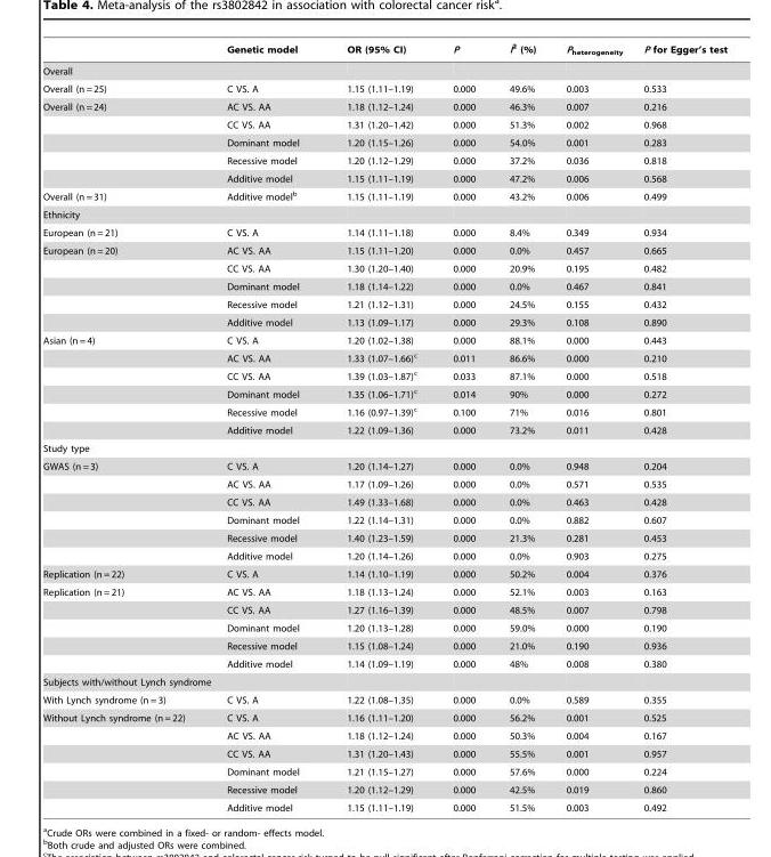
<table><thead><tr><td></td><td>Genetic model</td><td>OR (95% CI)</td><td>P</td><td>I<sup>2</sup> (%)</td><td>P<sub>heterogeneity</sub></td><td>P for Egger’s test</td></tr></thead><tbody><tr><td colspan="7">Overall</td></tr><tr><td>Overall (n = 25)</td><td>C VS. A</td><td>1.15 (1.11–1.19)</td><td>0.000</td><td>49.6%</td><td>0.003</td><td>0.533</td></tr><tr><td rowspan="5">Overall (n = 24)</td><td>AC VS. AA</td><td>1.18 (1.12–1.24)</td><td>0.000</td><td>46.3%</td><td>0.007</td><td>0.216</td></tr><tr><td>CC VS. AA</td><td>1.31 (1.20–1.42)</td><td>0.000</td><td>51.3%</td><td>0.002</td><td>0.968</td></tr><tr><td>Dominant model</td><td>1.20 (1.15–1.26)</td><td>0.000</td><td>54.0%</td><td>0.001</td><td>0.283</td></tr><tr><td>Recessive model</td><td>1.20 (1.12–1.29)</td><td>0.000</td><td>37.2%</td><td>0.036</td><td>0.818</td></tr><tr><td>Additive model</td><td>1.15 (1.11–1.19)</td><td>0.000</td><td>47.2%</td><td>0.006</td><td>0.568</td></tr><tr><td>Overall (n = 31)</td><td>Additive model<sup>b</sup></td><td>1.15 (1.11–1.19)</td><td>0.000</td><td>43.2%</td><td>0.006</td><td>0.499</td></tr><tr><td colspan="7">Ethnicity</td></tr><tr><td>European (n = 21)</td><td>C VS. A</td><td>1.14 (1.11–1.18)</td><td>0.000</td><td>8.4%</td><td>0.349</td><td>0.934</td></tr><tr><td rowspan="5">European (n = 20)</td><td>AC VS. AA</td><td>1.15 (1.11–1.20)</td><td>0.000</td><td>0.0%</td><td>0.457</td><td>0.665</td></tr><tr><td>CC VS. AA</td><td>1.30 (1.20–1.40)</td><td>0.000</td><td>20.9%</td><td>0.195</td><td>0.482</td></tr><tr><td>Dominant model</td><td>1.18 (1.14–1.22)</td><td>0.000</td><td>0.0%</td><td>0.467</td><td>0.841</td></tr><tr><td>Recessive model</td><td>1.21 (1.12–1.31)</td><td>0.000</td><td>24.5%</td><td>0.155</td><td>0.432</td></tr><tr><td>Additive model</td><td>1.13 (1.09–1.17)</td><td>0.000</td><td>29.3%</td><td>0.108</td><td>0.890</td></tr><tr><td rowspan="6">Asian (n = 4)</td><td>C VS. A</td><td>1.20 (1.02–1.38)</td><td>0.000</td><td>88.1%</td><td>0.000</td><td>0.443</td></tr><tr><td>AC VS. AA</td><td>1.33 (1.07–1.66)<sup>c</sup></td><td>0.011</td><td>86.6%</td><td>0.000</td><td>0.210</td></tr><tr><td>CC VS. AA</td><td>1.39 (1.03–1.87)<sup>c</sup></td><td>0.033</td><td>87.1%</td><td>0.000</td><td>0.518</td></tr><tr><td>Dominant model</td><td>1.35 (1.06–1.71)<sup>c</sup></td><td>0.014</td><td>90%</td><td>0.000</td><td>0.272</td></tr><tr><td>Recessive model</td><td>1.16 (0.97–1.39)<sup>c</sup></td><td>0.100</td><td>71%</td><td>0.016</td><td>0.801</td></tr><tr><td>Additive model</td><td>1.22 (1.09–1.36)</td><td>0.000</td><td>73.2%</td><td>0.011</td><td>0.428</td></tr><tr><td colspan="7">Study type</td></tr><tr><td rowspan="6">GWAS (n = 3)</td><td>C VS. A</td><td>1.20 (1.14–1.27)</td><td>0.000</td><td>0.0%</td><td>0.948</td><td>0.204</td></tr><tr><td>AC VS. AA</td><td>1.17 (1.09–1.26)</td><td>0.000</td><td>0.0%</td><td>0.571</td><td>0.535</td></tr><tr><td>CC VS. AA</td><td>1.49 (1.33–1.68)</td><td>0.000</td><td>0.0%</td><td>0.463</td><td>0.428</td></tr><tr><td>Dominant model</td><td>1.22 (1.14–1.31)</td><td>0.000</td><td>0.0%</td><td>0.882</td><td>0.607</td></tr><tr><td>Recessive model</td><td>1.40 (1.23–1.59)</td><td>0.000</td><td>21.3%</td><td>0.281</td><td>0.453</td></tr><tr><td>Additive model</td><td>1.20 (1.14–1.26)</td><td>0.000</td><td>0.0%</td><td>0.903</td><td>0.275</td></tr><tr><td>Replication (n = 22)</td><td>C VS. A</td><td>1.14 (1.10–1.19)</td><td>0.000</td><td>50.2%</td><td>0.004</td><td>0.376</td></tr><tr><td rowspan="5">Replication (n = 21)</td><td>AC VS. AA</td><td>1.18 (1.13–1.24)</td><td>0.000</td><td>52.1%</td><td>0.003</td><td>0.163</td></tr><tr><td>CC VS. AA</td><td>1.27 (1.16–1.39)</td><td>0.000</td><td>48.5%</td><td>0.007</td><td>0.798</td></tr><tr><td>Dominant model</td><td>1.20 (1.13–1.28)</td><td>0.000</td><td>59.0%</td><td>0.000</td><td>0.190</td></tr><tr><td>Recessive model</td><td>1.15 (1.08–1.24)</td><td>0.000</td><td>21.0%</td><td>0.190</td><td>0.936</td></tr><tr><td>Additive model</td><td>1.14 (1.09–1.19)</td><td>0.000</td><td>48%</td><td>0.008</td><td>0.380</td></tr><tr><td colspan="7">Subjects with/without Lynch syndrome</td></tr><tr><td>With Lynch syndrome (n = 3)</td><td>C VS. A</td><td>1.22 (1.08–1.35)</td><td>0.000</td><td>0.0%</td><td>0.589</td><td>0.355</td></tr><tr><td rowspan="6">Without Lynch syndrome (n = 22)</td><td>C VS. A</td><td>1.16 (1.11–1.20)</td><td>0.000</td><td>56.2%</td><td>0.001</td><td>0.525</td></tr><tr><td>AC VS. AA</td><td>1.18 (1.12–1.24)</td><td>0.000</td><td>50.3%</td><td>0.004</td><td>0.167</td></tr><tr><td>CC VS. AA</td><td>1.31 (1.20–1.43)</td><td>0.000</td><td>55.5%</td><td>0.001</td><td>0.957</td></tr><tr><td>Dominant model</td><td>1.21 (1.15–1.27)</td><td>0.000</td><td>57.6%</td><td>0.000</td><td>0.224</td></tr><tr><td>Recessive model</td><td>1.20 (1.12–1.29)</td><td>0.000</td><td>42.5%</td><td>0.019</td><td>0.860</td></tr><tr><td>Additive model</td><td>1.15 (1.11–1.19)</td><td>0.000</td><td>51.5%</td><td>0.003</td><td>0.492</td></tr></tbody></table>